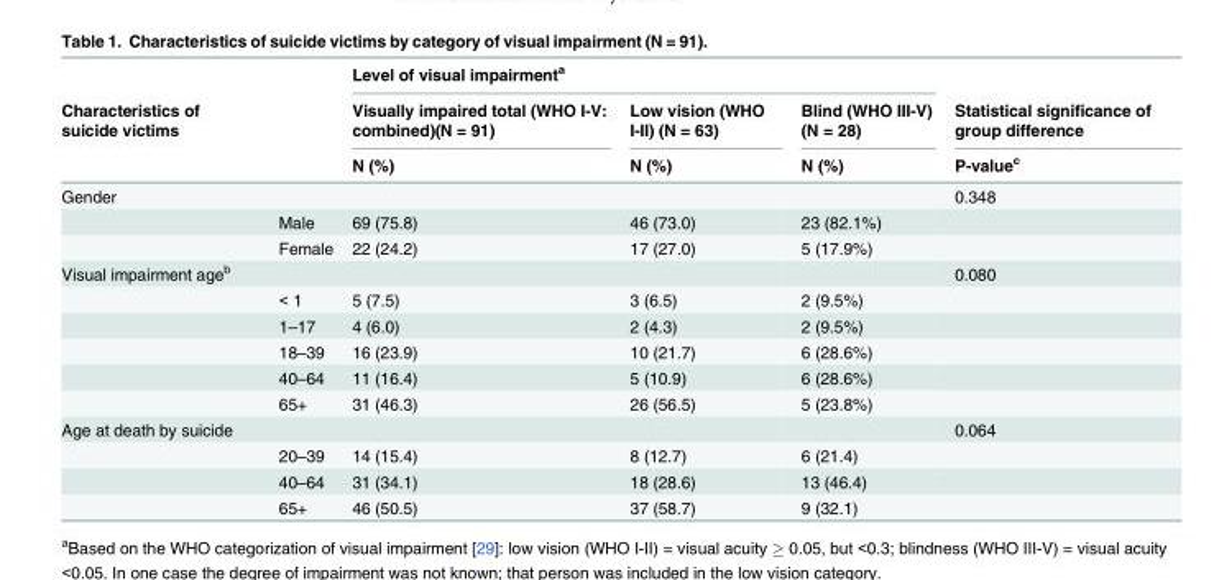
<table><thead><tr><td rowspan="3">Characteristics of suicide victims</td><td rowspan="3"></td><td colspan="3">Level of visual impairment<sup>a</sup></td><td rowspan="3">Statistical significance of group difference P-value<sup>c</sup></td></tr><tr><td rowspan="2">Visually impaired total (WHO I-V: combined)(N = 91) N (%)</td><td rowspan="2">Low vision (WHO I-II) (N = 63) N (%)</td><td rowspan="2">Blind (WHO III-V) (N = 28) N (%)</td></tr><tr></tr></thead><tbody><tr><td rowspan="3">Gender</td><td></td><td></td><td></td><td></td><td>0.348</td></tr><tr><td>Male</td><td>69 (75.8)</td><td>46 (73.0)</td><td>23 (82.1%)</td><td></td></tr><tr><td>Female</td><td>22 (24.2)</td><td>17 (27.0)</td><td>5 (17.9%)</td><td></td></tr><tr><td rowspan="6">Visual impairment age<sup>b</sup></td><td></td><td></td><td></td><td></td><td>0.080</td></tr><tr><td>&lt; 1</td><td>5 (7.5)</td><td>3 (6.5)</td><td>2 (9.5%)</td><td></td></tr><tr><td>1–17</td><td>4 (6.0)</td><td>2 (4.3)</td><td>2 (9.5%)</td><td></td></tr><tr><td>18–39</td><td>16 (23.9)</td><td>10 (21.7)</td><td>6 (28.6%)</td><td></td></tr><tr><td>40–64</td><td>11 (16.4)</td><td>5 (10.9)</td><td>6 (28.6%)</td><td></td></tr><tr><td>65+</td><td>31 (46.3)</td><td>26 (56.5)</td><td>5 (23.8%)</td><td></td></tr><tr><td rowspan="4">Age at death by suicide</td><td></td><td></td><td></td><td></td><td>0.064</td></tr><tr><td>20–39</td><td>14 (15.4)</td><td>8 (12.7)</td><td>6 (21.4)</td><td></td></tr><tr><td>40–64</td><td>31 (34.1)</td><td>18 (28.6)</td><td>13 (46.4)</td><td></td></tr><tr><td>65+</td><td>46 (50.5)</td><td>37 (58.7)</td><td>9 (32.1)</td><td></td></tr></tbody></table>